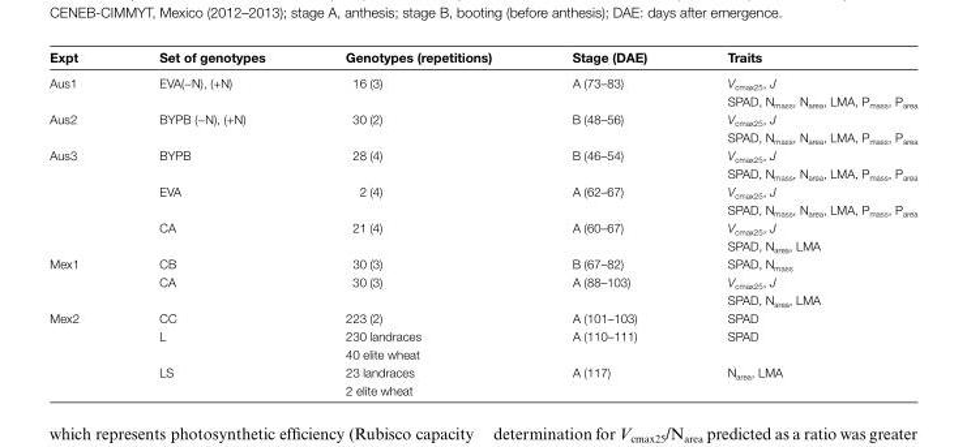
<table><thead><tr><td>Expt</td><td>Set of genotypes</td><td>Genotypes (repetitions)</td><td>Stage (DAE)</td><td>Traits</td></tr></thead><tbody><tr><td>Aus1</td><td>EVA(−N), (+N)</td><td>16 (3)</td><td>A (73–83)</td><td>V<sub>cmax25</sub>, J SPAD, N<sub>mass</sub>, N<sub>area</sub>, LMA, P<sub>mass</sub>, P<sub>area</sub></td></tr><tr><td>Aus2</td><td>BYPB (−N), (+N)</td><td>30 (2)</td><td>B (48–56)</td><td>V<sub>cmax25</sub>, J SPAD, N<sub>mass</sub>, N<sub>area</sub>, LMA, P<sub>mass</sub>, P<sub>area</sub></td></tr><tr><td rowspan="3">Aus3</td><td>BYPB</td><td>28 (4)</td><td>B (46–54)</td><td>V<sub>cmax25</sub>, J SPAD, N<sub>mass</sub>, N<sub>area</sub>, LMA, P<sub>mass</sub>, P<sub>area</sub></td></tr><tr><td>EVA</td><td>2 (4)</td><td>A (62–67)</td><td>V<sub>cmax25</sub>, J SPAD, N<sub>mass</sub>, N<sub>area</sub>, LMA, P<sub>mass</sub>, P<sub>area</sub></td></tr><tr><td>CA</td><td>21 (4)</td><td>A (60–67)</td><td>V<sub>cmax25</sub>, J SPAD, N<sub>area</sub>, LMA</td></tr><tr><td rowspan="2">Mex1</td><td>CB</td><td>30 (3)</td><td>B (67–82)</td><td>SPAD, N<sub>mass</sub></td></tr><tr><td>CA</td><td>30 (3)</td><td>A (88–103)</td><td>V<sub>cmax25</sub>, J SPAD, N<sub>area</sub>, LMA</td></tr><tr><td rowspan="3">Mex2</td><td>CC</td><td>223 (2)</td><td>A (101–103)</td><td>SPAD</td></tr><tr><td>L</td><td>230 landraces 40 elite wheat</td><td>A (110–111)</td><td>SPAD</td></tr><tr><td>LS</td><td>23 landraces 2 elite wheat</td><td>A (117)</td><td>N<sub>area</sub>, LMA</td></tr></tbody></table>